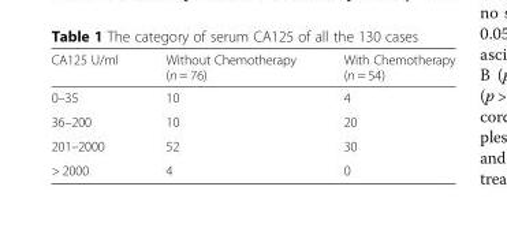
<table><thead><tr><td>CA125 U/ml</td><td>Without Chemotherapy (n = 76)</td><td>With Chemotherapy (n = 54)</td></tr></thead><tbody><tr><td>0–35</td><td>10</td><td>4</td></tr><tr><td>36–200</td><td>10</td><td>20</td></tr><tr><td>201–2000</td><td>52</td><td>30</td></tr><tr><td>&gt; 2000</td><td>4</td><td>0</td></tr></tbody></table>